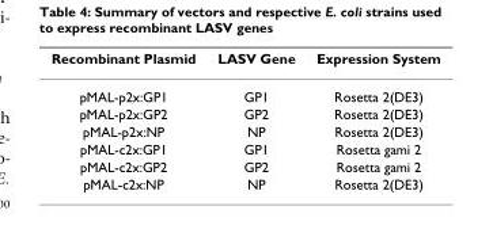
<table><thead><tr><td>Recombinant Plasmid</td><td>LASV Gene</td><td>Expression System</td></tr></thead><tbody><tr><td>pMAL-p2x:GP1</td><td>GP1</td><td>Rosetta 2(DE3)</td></tr><tr><td>pMAL-p2x:GP2</td><td>GP2</td><td>Rosetta 2(DE3)</td></tr><tr><td>pMAL-p2x:NP</td><td>NP</td><td>Rosetta 2(DE3)</td></tr><tr><td>pMAL-c2x:GP1</td><td>GP1</td><td>Rosetta gami 2</td></tr><tr><td>pMAL-c2x:GP2</td><td>GP2</td><td>Rosetta gami 2</td></tr><tr><td>pMAL-c2x:NP</td><td>NP</td><td>Rosetta 2(DE3)</td></tr></tbody></table>